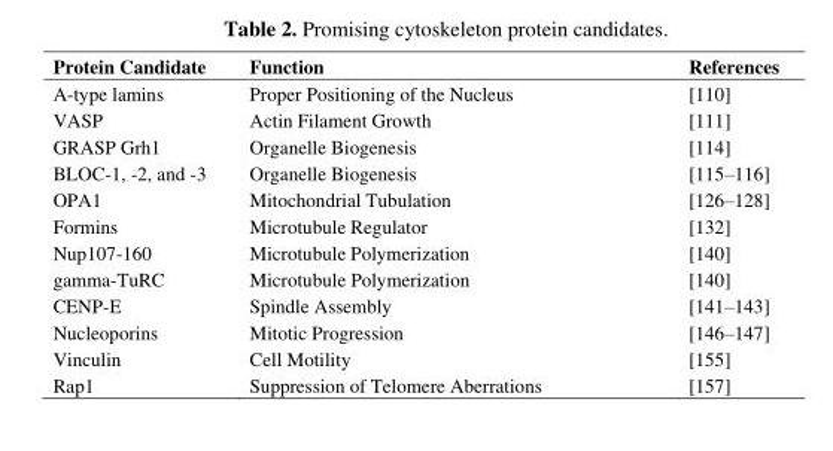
<table><thead><tr><td>Protein Candidate</td><td>Function</td><td>References</td></tr></thead><tbody><tr><td>A-type lamins</td><td>Proper Positioning of the Nucleus</td><td>[110]</td></tr><tr><td>VASP</td><td>Actin Filament Growth</td><td>[111]</td></tr><tr><td>GRASP Grh1</td><td>Organelle Biogenesis</td><td>[114]</td></tr><tr><td>BLOC-1, -2, and -3</td><td>Organelle Biogenesis</td><td>[115–116]</td></tr><tr><td>OPA1</td><td>Mitochondrial Tubulation</td><td>[126–128]</td></tr><tr><td>Formins</td><td>Microtubule Regulator</td><td>[132]</td></tr><tr><td>Nup107-160</td><td>Microtubule Polymerization</td><td>[140]</td></tr><tr><td>gamma-TuRC</td><td>Microtubule Polymerization</td><td>[140]</td></tr><tr><td>CENP-E</td><td>Spindle Assembly</td><td>[141–143]</td></tr><tr><td>Nucleoporins</td><td>Mitotic Progression</td><td>[146–147]</td></tr><tr><td>Vinculin</td><td>Cell Motility</td><td>[155]</td></tr><tr><td>Rap1</td><td>Suppression of Telomere Aberrations</td><td>[157]</td></tr></tbody></table>